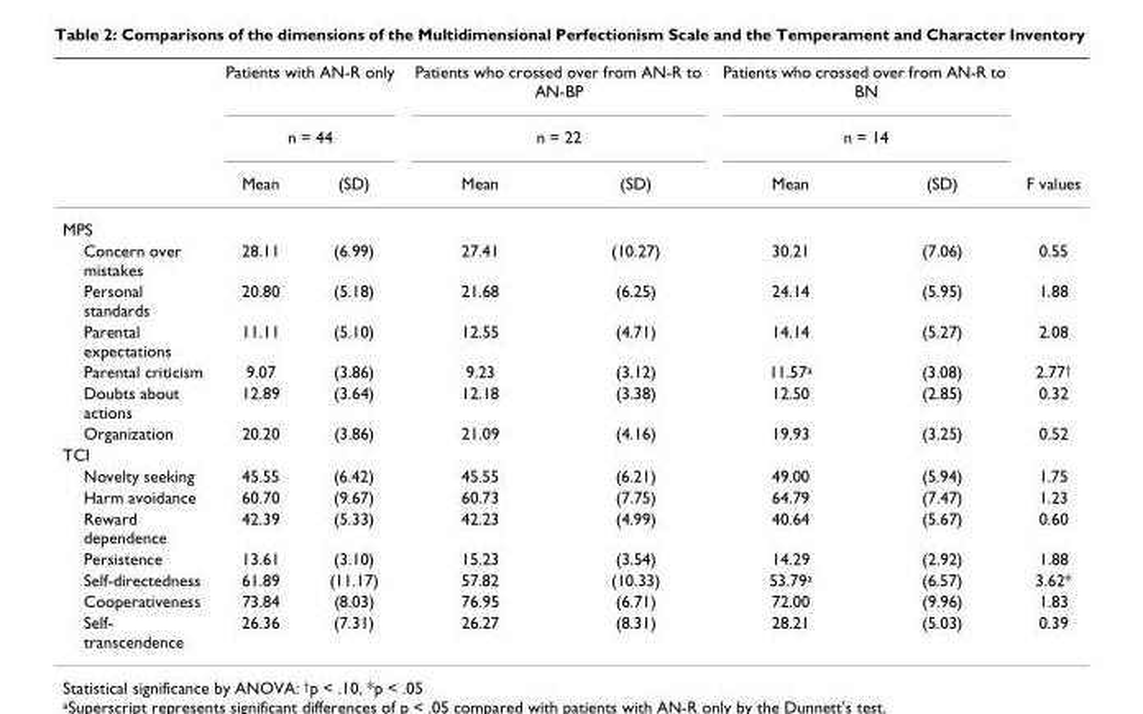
<table><thead><tr><td rowspan="3"></td><td rowspan="2" colspan="2">Patients with AN-R only n = 44</td><td rowspan="2" colspan="2">Patients who crossed over from AN-R to AN-BP n = 22</td><td rowspan="2" colspan="2">Patients who crossed over from AN-R to BN n = 14</td><td rowspan="3">F values</td></tr><tr></tr><tr><td>Mean</td><td>(SD)</td><td>Mean</td><td>(SD)</td><td>Mean</td><td>(SD)</td></tr></thead><tbody><tr><td colspan="8">MPS</td></tr><tr><td>Concern over mistakes</td><td>28.11</td><td>(6.99)</td><td>27.41</td><td>(10.27)</td><td>30.21</td><td>(7.06)</td><td>0.55</td></tr><tr><td>Personal standards</td><td>20.80</td><td>(5.18)</td><td>21.68</td><td>(6.25)</td><td>24.14</td><td>(5.95)</td><td>1.88</td></tr><tr><td>Parental expectations</td><td>11.11</td><td>(5.10)</td><td>12.55</td><td>(4.71)</td><td>14.14</td><td>(5.27)</td><td>2.08</td></tr><tr><td>Parental criticism</td><td>9.07</td><td>(3.86)</td><td>9.23</td><td>(3.12)</td><td>11.57<sup>a</sup></td><td>(3.08)</td><td>2.77<sup>†</sup></td></tr><tr><td>Doubts about actions</td><td>12.89</td><td>(3.64)</td><td>12.18</td><td>(3.38)</td><td>12.50</td><td>(2.85)</td><td>0.32</td></tr><tr><td>Organization</td><td>20.20</td><td>(3.86)</td><td>21.09</td><td>(4.16)</td><td>19.93</td><td>(3.25)</td><td>0.52</td></tr><tr><td colspan="8">TCI</td></tr><tr><td>Novelty seeking</td><td>45.55</td><td>(6.42)</td><td>45.55</td><td>(6.21)</td><td>49.00</td><td>(5.94)</td><td>1.75</td></tr><tr><td>Harm avoidance</td><td>60.70</td><td>(9.67)</td><td>60.73</td><td>(7.75)</td><td>64.79</td><td>(7.47)</td><td>1.23</td></tr><tr><td>Reward dependence</td><td>42.39</td><td>(5.33)</td><td>42.23</td><td>(4.99)</td><td>40.64</td><td>(5.67)</td><td>0.60</td></tr><tr><td>Persistence</td><td>13.61</td><td>(3.10)</td><td>15.23</td><td>(3.54)</td><td>14.29</td><td>(2.92)</td><td>1.88</td></tr><tr><td>Self-directedness</td><td>61.89</td><td>(11.17)</td><td>57.82</td><td>(10.33)</td><td>53.79<sup>a</sup></td><td>(6.57)</td><td>3.62*</td></tr><tr><td>Cooperativeness</td><td>73.84</td><td>(8.03)</td><td>76.95</td><td>(6.71)</td><td>72.00</td><td>(9.96)</td><td>1.83</td></tr><tr><td>Self- transcendence</td><td>26.36</td><td>(7.31)</td><td>26.27</td><td>(8.31)</td><td>28.21</td><td>(5.03)</td><td>0.39</td></tr></tbody></table>